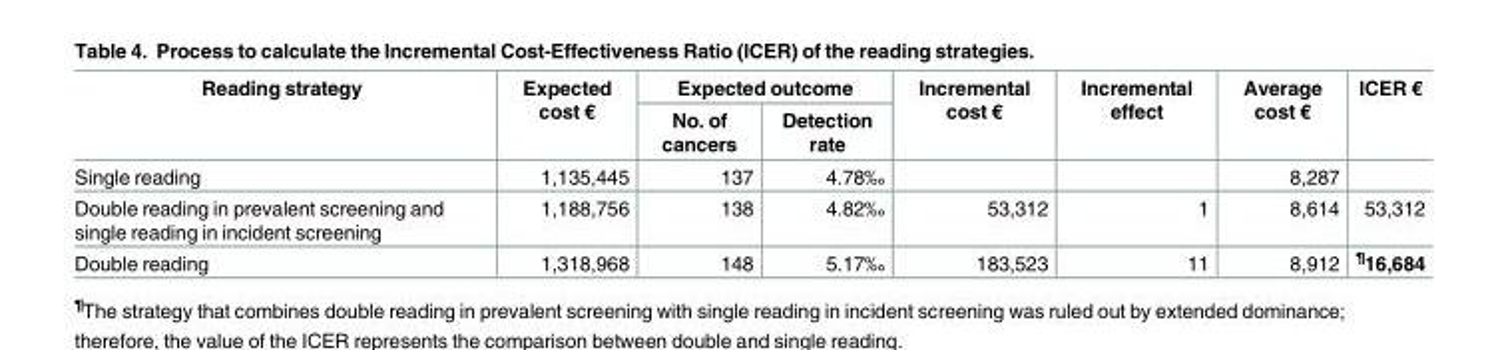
<table><thead><tr><td rowspan="2">Reading strategy</td><td rowspan="2">Expected cost €</td><td colspan="2">Expected outcome</td><td rowspan="2">Incremental cost €</td><td rowspan="2">Incremental effect</td><td rowspan="2">Average cost €</td><td rowspan="2">ICER €</td></tr><tr><td>No. of cancers</td><td>Detection rate</td></tr></thead><tbody><tr><td>Single reading</td><td>1,135,445</td><td>137</td><td>4.78‰</td><td></td><td></td><td>8,287</td><td></td></tr><tr><td>Double reading in prevalent screening and single reading in incident screening</td><td>1,188,756</td><td>138</td><td>4.82‰</td><td>53,312</td><td>1</td><td>8,614</td><td>53,312</td></tr><tr><td>Double reading</td><td>1,318,968</td><td>148</td><td>5.17‰</td><td>183,523</td><td>11</td><td>8,912</td><td><sup>¶</sup>16,684</td></tr></tbody></table>